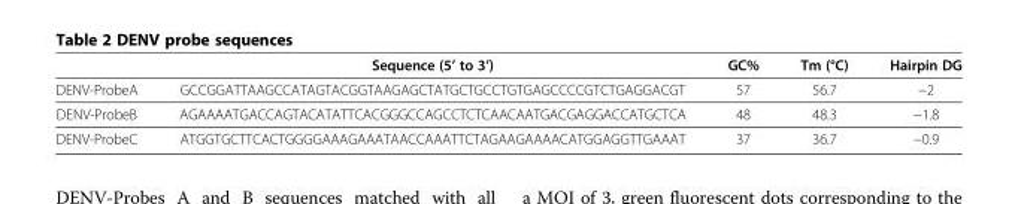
<table><thead><tr><td></td><td>Sequence (5’ to 3’)</td><td>GC%</td><td>Tm (°C)</td><td>Hairpin DG</td></tr></thead><tbody><tr><td>DENV-ProbeA</td><td>GCCGGATTAAGCCATAGTACGGTAAGAGCTATGCTGCCTGTGAGCCCCGTCTGAGGACGT</td><td>57</td><td>56.7</td><td>−2</td></tr><tr><td>DENV-ProbeB</td><td>AGAAAATGACCAGTACATATTCACGGGCCAGCCTCTCAACAATGACGAGGACCATGCTCA</td><td>48</td><td>48.3</td><td>−1.8</td></tr><tr><td>DENV-ProbeC</td><td>ATGGTGCTTCACTGGGGAAAGAAATAACCAAATTCTAGAAGAAAACATGGAGGTTGAAAT</td><td>37</td><td>36.7</td><td>−0.9</td></tr></tbody></table>